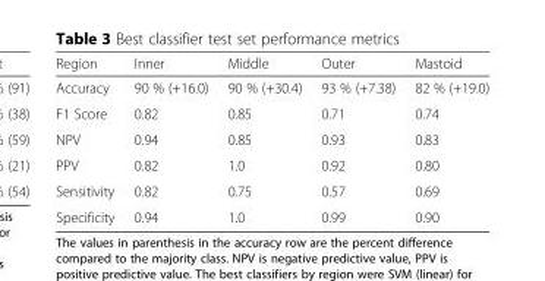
<table><thead><tr><td>Region</td><td>Inner</td><td>Middle</td><td>Outer</td><td>Mastoid</td></tr></thead><tbody><tr><td>Accuracy</td><td>90 % (+16.0)</td><td>90 % (+30.4)</td><td>93 % (+7.38)</td><td>82 % (+19.0)</td></tr><tr><td>F1 Score</td><td>0.82</td><td>0.85</td><td>0.71</td><td>0.74</td></tr><tr><td>NPV</td><td>0.94</td><td>0.85</td><td>0.93</td><td>0.83</td></tr><tr><td>PPV</td><td>0.82</td><td>1.0</td><td>0.92</td><td>0.80</td></tr><tr><td>Sensitivity</td><td>0.82</td><td>0.75</td><td>0.57</td><td>0.69</td></tr><tr><td>Specificity</td><td>0.94</td><td>1.0</td><td>0.99</td><td>0.90</td></tr></tbody></table>